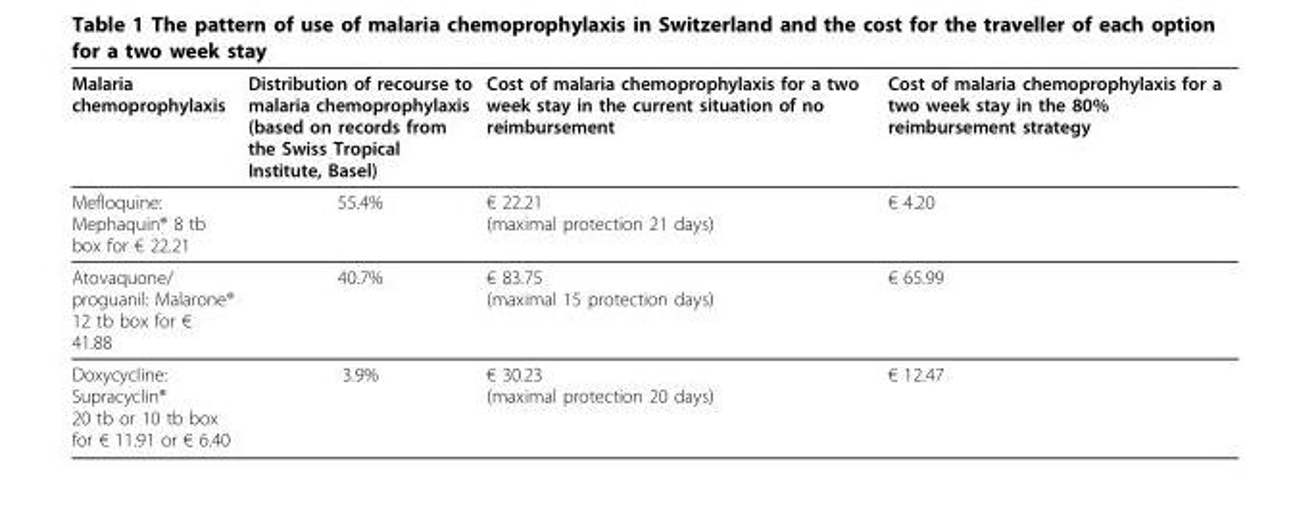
<table><thead><tr><td>Malaria chemoprophylaxis</td><td>Distribution of recourse to malaria chemoprophylaxis (based on records from the Swiss Tropical Institute, Basel)</td><td>Cost of malaria chemoprophylaxis for a two week stay in the current situation of no reimbursement</td><td>Cost of malaria chemoprophylaxis for a two week stay in the 80% reimbursement strategy</td></tr></thead><tbody><tr><td>Mefloquine: Mephaquin<sup>®</sup> 8 tb box for € 22.21</td><td>55.4%</td><td>€ 22.21 (maximal protection 21 days)</td><td>€ 4.20</td></tr><tr><td>Atovaquone/ proguanil: Malarone<sup>®</sup> 12 tb box for € 41.88</td><td>40.7%</td><td>€ 83.75 (maximal 15 protection days)</td><td>€ 65.99</td></tr><tr><td>Doxycycline: Supracyclin<sup>®</sup> 20 tb or 10 tb box for € 11.91 or € 6.40</td><td>3.9%</td><td>€ 30.23 (maximal protection 20 days)</td><td>€ 12.47</td></tr></tbody></table>